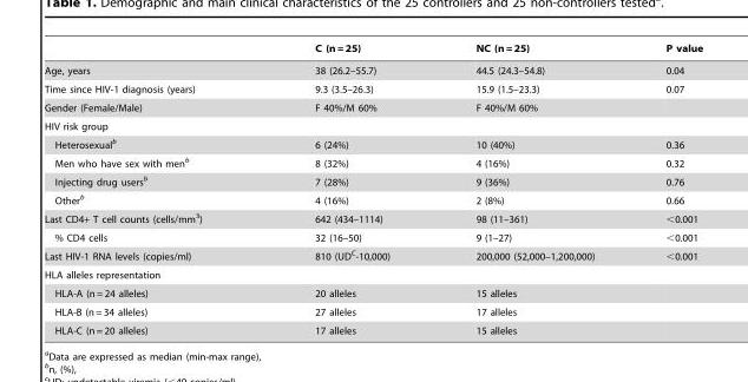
<table><thead><tr><td></td><td>C (n = 25)</td><td>NC (n = 25)</td><td>P value</td></tr></thead><tbody><tr><td>Age, years</td><td>38 (26.2–55.7)</td><td>44.5 (24.3–54.8)</td><td>0.04</td></tr><tr><td>Time since HIV-1 diagnosis (years)</td><td>9.3 (3.5–26.3)</td><td>15.9 (1.5–23.3)</td><td>0.07</td></tr><tr><td>Gender (Female/Male)</td><td>F 40%/M 60%</td><td>F 40%/M 60%</td><td></td></tr><tr><td colspan="4">HIV risk group</td></tr><tr><td>Heterosexual<sup>b</sup></td><td>6 (24%)</td><td>10 (40%)</td><td>0.36</td></tr><tr><td>Men who have sex with men<sup>b</sup></td><td>8 (32%)</td><td>4 (16%)</td><td>0.32</td></tr><tr><td>Injecting drug users<sup>b</sup></td><td>7 (28%)</td><td>9 (36%)</td><td>0.76</td></tr><tr><td>Other<sup>b</sup></td><td>4 (16%)</td><td>2 (8%)</td><td>0.66</td></tr><tr><td>Last CD4+ T cell counts (cells/mm<sup>3</sup>)</td><td>642 (434–1114)</td><td>98 (11–361)</td><td>&lt;0.001</td></tr><tr><td>% CD4 cells</td><td>32 (16–50)</td><td>9 (1–27)</td><td>&lt;0.001</td></tr><tr><td>Last HIV-1 RNA levels (copies/ml)</td><td>810 (UD<sup>C</sup>-10,000)</td><td>200,000 (52,000–1,200,000)</td><td>&lt;0.001</td></tr><tr><td colspan="4">HLA alleles representation</td></tr><tr><td>HLA-A (n = 24 alleles)</td><td>20 alleles</td><td>15 alleles</td><td></td></tr><tr><td>HLA-B (n = 34 alleles)</td><td>27 alleles</td><td>17 alleles</td><td></td></tr><tr><td>HLA-C (n = 20 alleles)</td><td>17 alleles</td><td>15 alleles</td><td></td></tr></tbody></table>